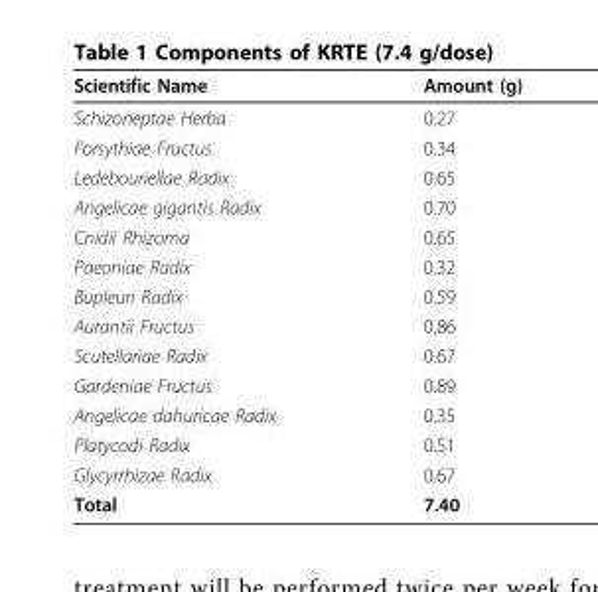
<table><thead><tr><td>Scientific Name</td><td>Amount (g)</td></tr></thead><tbody><tr><td>Schizoneptae Herba</td><td>0.27</td></tr><tr><td>Forsythiae Fructus</td><td>0.34</td></tr><tr><td>Ledebouriellae Radix</td><td>0.65</td></tr><tr><td>Angelicae gigantis Radix</td><td>0.70</td></tr><tr><td>Cnidii Rhizoma</td><td>0.65</td></tr><tr><td>Paeoniae Radix</td><td>0.32</td></tr><tr><td>Bupleuri Radix</td><td>0.59</td></tr><tr><td>Aurantii Fructus</td><td>0.86</td></tr><tr><td>Scutellariae Radix</td><td>0.67</td></tr><tr><td>Gardeniae Fructus</td><td>0.89</td></tr><tr><td>Angelicae dahuricae Radix</td><td>0.35</td></tr><tr><td>Platycodi Radix</td><td>0.51</td></tr><tr><td>Glycyrrhizae Radix</td><td>0.67</td></tr><tr><td>Total</td><td>7.40</td></tr></tbody></table>